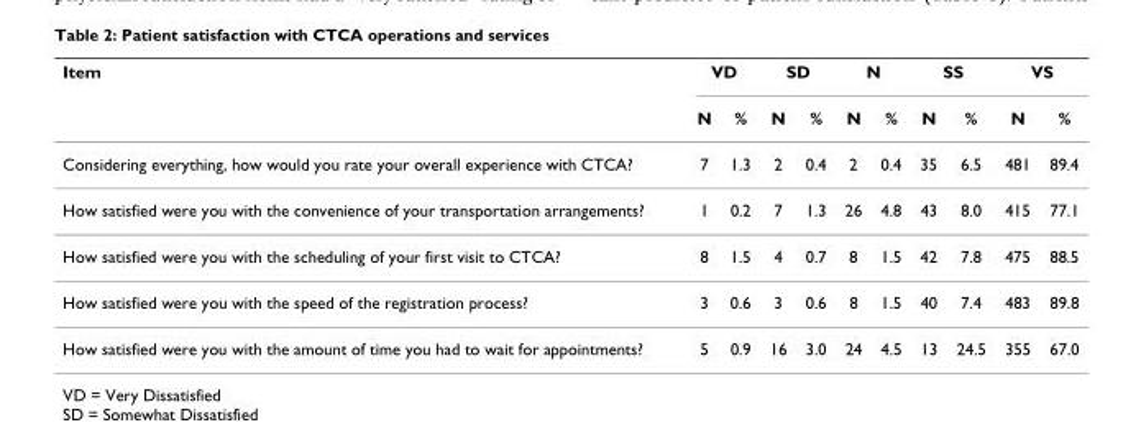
<table><thead><tr><td rowspan="2">Item</td><td colspan="2">VD</td><td colspan="2">SD</td><td colspan="2">N</td><td colspan="2">SS</td><td colspan="2">VS</td></tr><tr><td>N</td><td>%</td><td>N</td><td>%</td><td>N</td><td>%</td><td>N</td><td>%</td><td>N</td><td>%</td></tr></thead><tbody><tr><td>Considering everything, how would you rate your overall experience with CTCA?</td><td>7</td><td>1.3</td><td>2</td><td>0.4</td><td>2</td><td>0.4</td><td>35</td><td>6.5</td><td>481</td><td>89.4</td></tr><tr><td>How satisfied were you with the convenience of your transportation arrangements?</td><td>1</td><td>0.2</td><td>7</td><td>1.3</td><td>26</td><td>4.8</td><td>43</td><td>8.0</td><td>415</td><td>77.1</td></tr><tr><td>How satisfied were you with the scheduling of your first visit to CTCA?</td><td>8</td><td>1.5</td><td>4</td><td>0.7</td><td>8</td><td>1.5</td><td>42</td><td>7.8</td><td>475</td><td>88.5</td></tr><tr><td>How satisfied were you with the speed of the registration process?</td><td>3</td><td>0.6</td><td>3</td><td>0.6</td><td>8</td><td>1.5</td><td>40</td><td>7.4</td><td>483</td><td>89.8</td></tr><tr><td>How satisfied were you with the amount of time you had to wait for appointments?</td><td>5</td><td>0.9</td><td>16</td><td>3.0</td><td>24</td><td>4.5</td><td>13</td><td>24.5</td><td>355</td><td>67.0</td></tr></tbody></table>